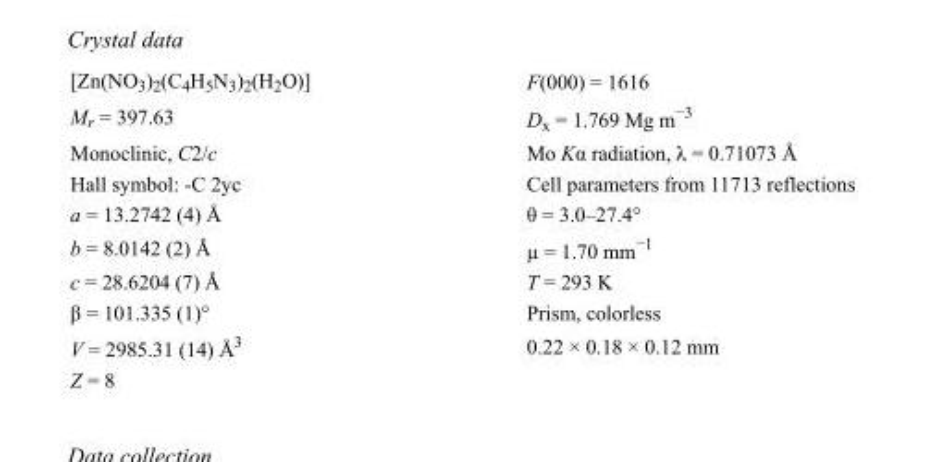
<table><tbody><tr><td>[Zn(NO<sub>3</sub>)<sub>2</sub>(C<sub>4</sub>H<sub>5</sub>N<sub>3</sub>)<sub>2</sub>(H<sub>2</sub>O)]</td><td>F(000) = 1616</td></tr><tr><td>M<sub>r</sub> = 397.63</td><td>D<sub>x</sub> = 1.769 Mg m<sup>−3</sup></td></tr><tr><td>Monoclinic, C2/c</td><td>Mo Kα radiation, λ = 0.71073 Å</td></tr><tr><td>Hall symbol: -C 2yc</td><td>Cell parameters from 11713 reflections</td></tr><tr><td>a = 13.2742 (4) Å</td><td>θ = 3.0–27.4°</td></tr><tr><td>b = 8.0142 (2) Å</td><td>µ = 1.70 mm<sup>−1</sup></td></tr><tr><td>c = 28.6204 (7) Å</td><td>T = 293 K</td></tr><tr><td>β = 101.335 (1)°</td><td>Prism, colorless</td></tr><tr><td>V = 2985.31 (14) Å<sup>3</sup></td><td>0.22 × 0.18 × 0.12 mm</td></tr><tr><td>Z = 8</td><td></td></tr></tbody></table>